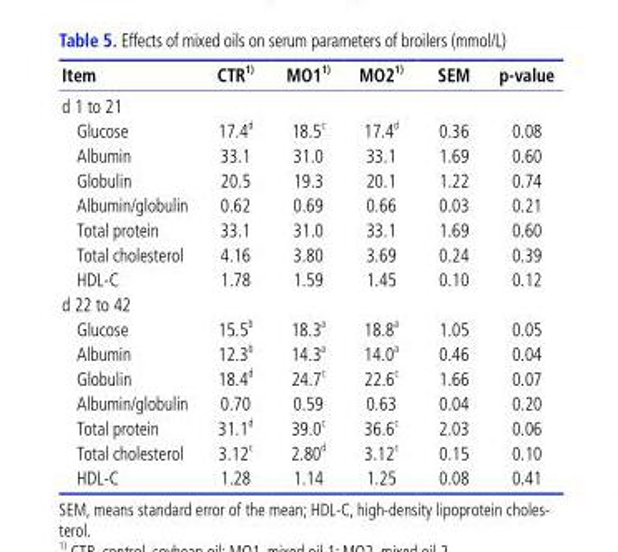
<table><thead><tr><td>Item</td><td>CTR 1)</td><td>MO1 1)</td><td>MO2 1)</td><td>SEM</td><td>p-value</td></tr></thead><tbody><tr><td colspan="6">d 1 to 21</td></tr><tr><td>Glucose</td><td>17.4 <sup>d</sup></td><td>18.5 <sup>c</sup></td><td>17.4 <sup>d</sup></td><td>0.36</td><td>0.08</td></tr><tr><td>Albumin</td><td>33.1</td><td>31.0</td><td>33.1</td><td>1.69</td><td>0.60</td></tr><tr><td>Globulin</td><td>20.5</td><td>19.3</td><td>20.1</td><td>1.22</td><td>0.74</td></tr><tr><td>Albumin/globulin</td><td>0.62</td><td>0.69</td><td>0.66</td><td>0.03</td><td>0.21</td></tr><tr><td>Total protein</td><td>33.1</td><td>31.0</td><td>33.1</td><td>1.69</td><td>0.60</td></tr><tr><td>Total cholesterol</td><td>4.16</td><td>3.80</td><td>3.69</td><td>0.24</td><td>0.39</td></tr><tr><td>HDL-C</td><td>1.78</td><td>1.59</td><td>1.45</td><td>0.10</td><td>0.12</td></tr><tr><td colspan="6">d 22 to 42</td></tr><tr><td>Glucose</td><td>15.5 <sup>b</sup></td><td>18.3 <sup>a</sup></td><td>18.8 <sup>a</sup></td><td>1.05</td><td>0.05</td></tr><tr><td>Albumin</td><td>12.3 <sup>b</sup></td><td>14.3 <sup>a</sup></td><td>14.0 <sup>a</sup></td><td>0.46</td><td>0.04</td></tr><tr><td>Globulin</td><td>18.4 <sup>d</sup></td><td>24.7 <sup>c</sup></td><td>22.6 <sup>c</sup></td><td>1.66</td><td>0.07</td></tr><tr><td>Albumin/globulin</td><td>0.70</td><td>0.59</td><td>0.63</td><td>0.04</td><td>0.20</td></tr><tr><td>Total protein</td><td>31.1 <sup>d</sup></td><td>39.0 <sup>c</sup></td><td>36.6 <sup>c</sup></td><td>2.03</td><td>0.06</td></tr><tr><td>Total cholesterol</td><td>3.12 <sup>c</sup></td><td>2.80 <sup>d</sup></td><td>3.12 <sup>c</sup></td><td>0.15</td><td>0.10</td></tr><tr><td>HDL-C</td><td>1.28</td><td>1.14</td><td>1.25</td><td>0.08</td><td>0.41</td></tr></tbody></table>